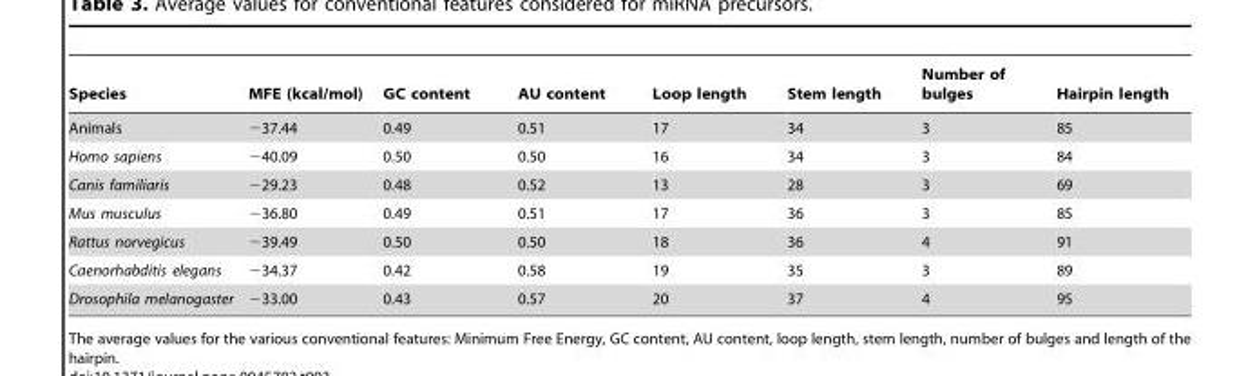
<table><thead><tr><td>Species</td><td>MFE (kcal/mol)</td><td>GC content</td><td>AU content</td><td>Loop length</td><td>Stem length</td><td>Number of bulges</td><td>Hairpin length</td></tr></thead><tbody><tr><td>Animals</td><td>−37.44</td><td>0.49</td><td>0.51</td><td>17</td><td>34</td><td>3</td><td>85</td></tr><tr><td>Homo sapiens</td><td>−40.09</td><td>0.50</td><td>0.50</td><td>16</td><td>34</td><td>3</td><td>84</td></tr><tr><td>Canis familiaris</td><td>−29.23</td><td>0.48</td><td>0.52</td><td>13</td><td>28</td><td>3</td><td>69</td></tr><tr><td>Mus musculus</td><td>−36.80</td><td>0.49</td><td>0.51</td><td>17</td><td>36</td><td>3</td><td>85</td></tr><tr><td>Rattus norvegicus</td><td>−39.49</td><td>0.50</td><td>0.50</td><td>18</td><td>36</td><td>4</td><td>91</td></tr><tr><td>Caenorhabditis elegans</td><td>−34.37</td><td>0.42</td><td>0.58</td><td>19</td><td>35</td><td>3</td><td>89</td></tr><tr><td>Drosophila melanogaster</td><td>−33.00</td><td>0.43</td><td>0.57</td><td>20</td><td>37</td><td>4</td><td>95</td></tr></tbody></table>